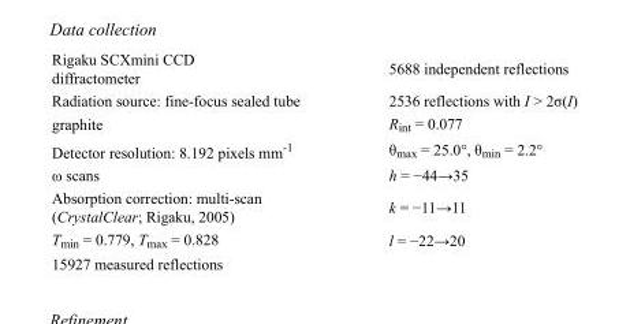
<table><tbody><tr><td>Rigaku SCXmini CCD diffractometer</td><td>5688 independent reflections</td></tr><tr><td>Radiation source: fine-focus sealed tube</td><td>2536 reflections with I &gt; 2σ(I)</td></tr><tr><td>graphite</td><td>R<sub>int</sub> = 0.077</td></tr><tr><td>Detector resolution: 8.192 pixels mm<sup>-1</sup></td><td>θ<sub>max</sub> = 25.0°, θ<sub>min</sub> = 2.2°</td></tr><tr><td>ω scans</td><td>h = −44→35</td></tr><tr><td>Absorption correction: multi-scan (CrystalClear; Rigaku, 2005)</td><td>k = −11→11</td></tr><tr><td>T<sub>min</sub> = 0.779, T<sub>max</sub> = 0.828</td><td>l = −22→20</td></tr><tr><td>15927 measured reflections</td><td></td></tr></tbody></table>